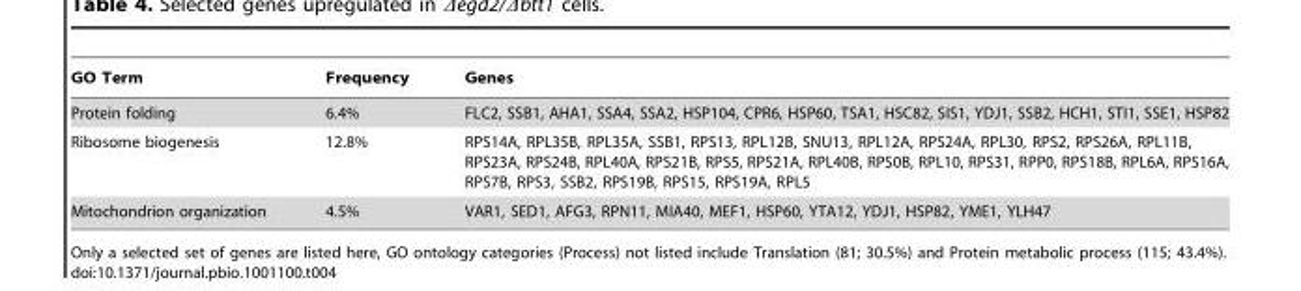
<table><thead><tr><td>GO Term</td><td>Frequency</td><td>Genes</td></tr></thead><tbody><tr><td>Protein folding</td><td>6.4%</td><td>FLC2, SSB1, AHA1, SSA4, SSA2, HSP104, CPR6, HSP60, TSA1, HSC82, SIS1, YDJ1, SSB2, HCH1, STI1, SSE1, HSP82</td></tr><tr><td>Ribosome biogenesis</td><td>12.8%</td><td>RPS14A, RPL35B, RPL35A, SSB1, RPS13, RPL12B, SNU13, RPL12A, RPS24A, RPL30, RPS2, RPS26A, RPL11B, RPS23A, RPS24B, RPL40A, RPS21B, RPS5, RPS21A, RPL40B, RPS0B, RPL10, RPS31, RPP0, RPS18B, RPL6A, RPS16A, RPS7B, RPS3, SSB2, RPS19B, RPS15, RPS19A, RPL5</td></tr><tr><td>Mitochondrion organization</td><td>4.5%</td><td>VAR1, SED1, AFG3, RPN11, MIA40, MEF1, HSP60, YTA12, YDJ1, HSP82, YME1, YLH47</td></tr></tbody></table>